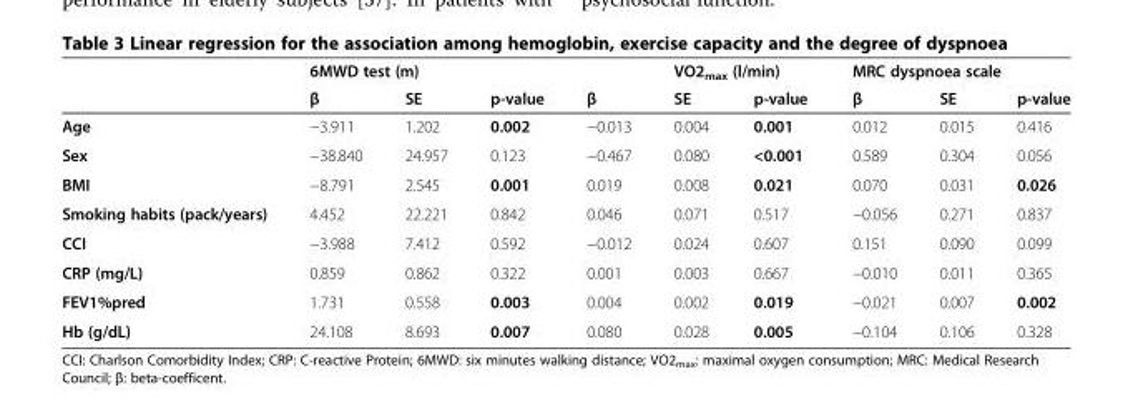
<table><thead><tr><td rowspan="2"></td><td colspan="4">6MWD test (m)</td><td colspan="2">VO2<sub>max</sub> (l/min)</td><td colspan="3">MRC dyspnoea scale</td></tr><tr><td>β</td><td>SE</td><td>p-value</td><td>β</td><td>SE</td><td>p-value</td><td>β</td><td>SE</td><td>p-value</td></tr></thead><tbody><tr><td>Age</td><td>−3.911</td><td>1.202</td><td>0.002</td><td>−0.013</td><td>0.004</td><td>0.001</td><td>0.012</td><td>0.015</td><td>0.416</td></tr><tr><td>Sex</td><td>−38.840</td><td>24.957</td><td>0.123</td><td>−0.467</td><td>0.080</td><td>&lt;0.001</td><td>0.589</td><td>0.304</td><td>0.056</td></tr><tr><td>BMI</td><td>−8.791</td><td>2.545</td><td>0.001</td><td>0.019</td><td>0.008</td><td>0.021</td><td>0.070</td><td>0.031</td><td>0.026</td></tr><tr><td>Smoking habits (pack/years)</td><td>4.452</td><td>22.221</td><td>0.842</td><td>0.046</td><td>0.071</td><td>0.517</td><td>−0.056</td><td>0.271</td><td>0.837</td></tr><tr><td>CCI</td><td>−3.988</td><td>7.412</td><td>0.592</td><td>−0.012</td><td>0.024</td><td>0.607</td><td>0.151</td><td>0.090</td><td>0.099</td></tr><tr><td>CRP (mg/L)</td><td>0.859</td><td>0.862</td><td>0.322</td><td>0.001</td><td>0.003</td><td>0.667</td><td>−0.010</td><td>0.011</td><td>0.365</td></tr><tr><td>FEV1%pred</td><td>1.731</td><td>0.558</td><td>0.003</td><td>0.004</td><td>0.002</td><td>0.019</td><td>−0.021</td><td>0.007</td><td>0.002</td></tr><tr><td>Hb (g/dL)</td><td>24.108</td><td>8.693</td><td>0.007</td><td>0.080</td><td>0.028</td><td>0.005</td><td>−0.104</td><td>0.106</td><td>0.328</td></tr></tbody></table>